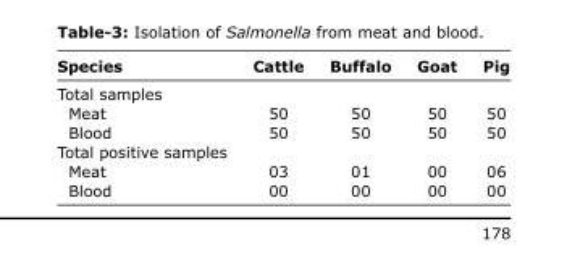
<table><thead><tr><td>Species</td><td>Cattle</td><td>Buffalo</td><td>Goat</td><td>Pig</td></tr></thead><tbody><tr><td colspan="5">Total samples</td></tr><tr><td>Meat</td><td>50</td><td>50</td><td>50</td><td>50</td></tr><tr><td>Blood</td><td>50</td><td>50</td><td>50</td><td>50</td></tr><tr><td colspan="5">Total positive samples</td></tr><tr><td>Meat</td><td>03</td><td>01</td><td>00</td><td>06</td></tr><tr><td>Blood</td><td>00</td><td>00</td><td>00</td><td>00</td></tr></tbody></table>